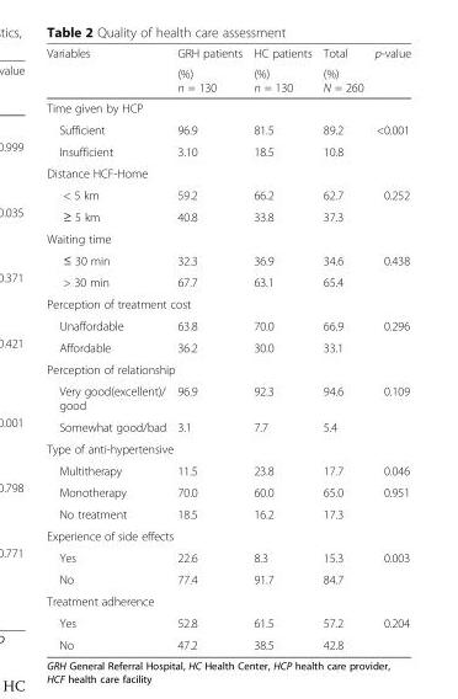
<table><thead><tr><td rowspan="2">Variables</td><td rowspan="2">GRH patients (%) n = 130</td><td rowspan="2">HC patients (%) n = 130</td><td rowspan="2">Total (%) N = 260</td><td rowspan="2">p-value</td></tr><tr></tr></thead><tbody><tr><td colspan="5">Time given by HCP</td></tr><tr><td>Sufficient</td><td>96.9</td><td>81.5</td><td>89.2</td><td>&lt;0.001</td></tr><tr><td>Insufficient</td><td>3.10</td><td>18.5</td><td>10.8</td><td></td></tr><tr><td colspan="5">Distance HCF-Home</td></tr><tr><td>&lt; 5 km</td><td>59.2</td><td>66.2</td><td>62.7</td><td>0.252</td></tr><tr><td>≥ 5 km</td><td>40.8</td><td>33.8</td><td>37.3</td><td></td></tr><tr><td colspan="5">Waiting time</td></tr><tr><td>≤ 30 min</td><td>32.3</td><td>36.9</td><td>34.6</td><td>0.438</td></tr><tr><td>&gt; 30 min</td><td>67.7</td><td>63.1</td><td>65.4</td><td></td></tr><tr><td colspan="5">Perception of treatment cost</td></tr><tr><td>Unaffordable</td><td>63.8</td><td>70.0</td><td>66.9</td><td>0.296</td></tr><tr><td>Affordable</td><td>36.2</td><td>30.0</td><td>33.1</td><td></td></tr><tr><td colspan="5">Perception of relationship</td></tr><tr><td>Very good(excellent)/ good</td><td>96.9</td><td>92.3</td><td>94.6</td><td>0.109</td></tr><tr><td>Somewhat good/bad</td><td>3.1</td><td>7.7</td><td>5.4</td><td></td></tr><tr><td colspan="5">Type of anti-hypertensive</td></tr><tr><td>Multitherapy</td><td>11.5</td><td>23.8</td><td>17.7</td><td>0.046</td></tr><tr><td>Monotherapy</td><td>70.0</td><td>60.0</td><td>65.0</td><td>0.951</td></tr><tr><td>No treatment</td><td>18.5</td><td>16.2</td><td>17.3</td><td></td></tr><tr><td colspan="5">Experience of side effects</td></tr><tr><td>Yes</td><td>22.6</td><td>8.3</td><td>15.3</td><td>0.003</td></tr><tr><td>No</td><td>77.4</td><td>91.7</td><td>84.7</td><td></td></tr><tr><td colspan="5">Treatment adherence</td></tr><tr><td>Yes</td><td>52.8</td><td>61.5</td><td>57.2</td><td>0.204</td></tr><tr><td>No</td><td>47.2</td><td>38.5</td><td>42.8</td><td></td></tr></tbody></table>